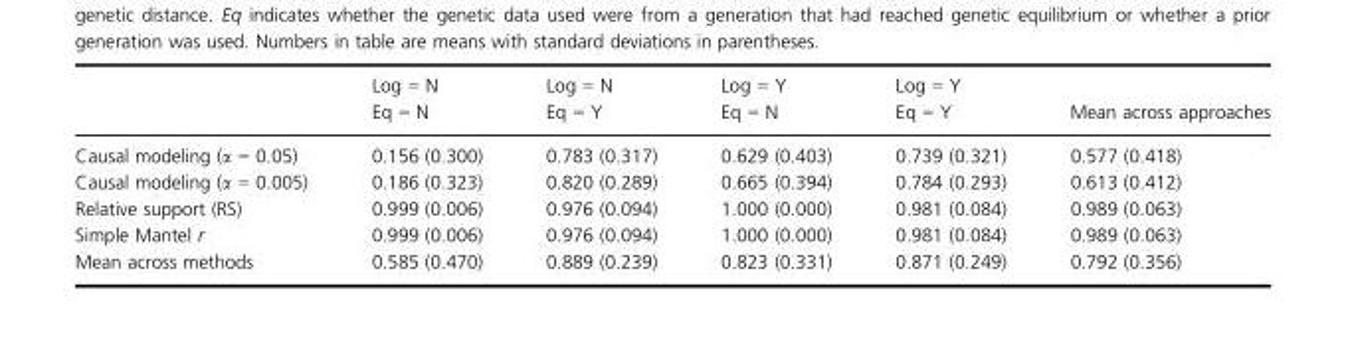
<table><thead><tr><td></td><td>Log = N Eq = N</td><td>Log = N Eq = Y</td><td>Log = Y Eq = N</td><td>Log = Y Eq = Y</td><td>Mean across approaches</td></tr></thead><tbody><tr><td>Causal modeling (α = 0.05)</td><td>0.156 (0.300)</td><td>0.783 (0.317)</td><td>0.629 (0.403)</td><td>0.739 (0.321)</td><td>0.577 (0.418)</td></tr><tr><td>Causal modeling (α = 0.005)</td><td>0.186 (0.323)</td><td>0.820 (0.289)</td><td>0.665 (0.394)</td><td>0.784 (0.293)</td><td>0.613 (0.412)</td></tr><tr><td>Relative support (RS)</td><td>0.999 (0.006)</td><td>0.976 (0.094)</td><td>1.000 (0.000)</td><td>0.981 (0.084)</td><td>0.989 (0.063)</td></tr><tr><td>Simple Mantel r</td><td>0.999 (0.006)</td><td>0.976 (0.094)</td><td>1.000 (0.000)</td><td>0.981 (0.084)</td><td>0.989 (0.063)</td></tr><tr><td>Mean across methods</td><td>0.585 (0.470)</td><td>0.889 (0.239)</td><td>0.823 (0.331)</td><td>0.871 (0.249)</td><td>0.792 (0.356)</td></tr></tbody></table>